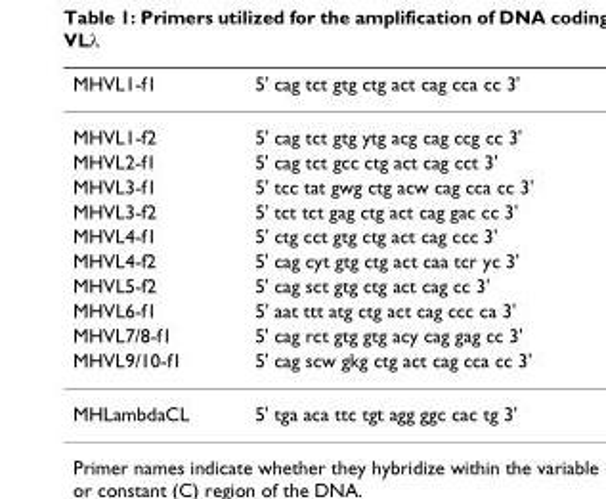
<table><thead><tr><td>MHVL1-f1</td><td>5&#x27; cag tct gtg ctg act cag cca cc 3&#x27;</td></tr></thead><tbody><tr><td>MHVL1-f2</td><td>5&#x27; cag tct gtg ytg acg cag ccg cc 3&#x27;</td></tr><tr><td>MHVL2-f1</td><td>5&#x27; cag tct gcc ctg act cag cct 3&#x27;</td></tr><tr><td>MHVL3-f1</td><td>5&#x27; tcc tat gwg ctg acw cag cca cc 3&#x27;</td></tr><tr><td>MHVL3-f2</td><td>5&#x27; tct tct gag ctg act cag gac cc 3&#x27;</td></tr><tr><td>MHVL4-f1</td><td>5&#x27; ctg cct gtg ctg act cag ccc 3&#x27;</td></tr><tr><td>MHVL4-f2</td><td>5&#x27; cag cyt gtg ctg act caa tcr yc 3&#x27;</td></tr><tr><td>MHVL5-f2</td><td>5&#x27; cag sct gtg ctg act cag cc 3&#x27;</td></tr><tr><td>MHVL6-f1</td><td>5&#x27; aat ttt atg ctg act cag ccc ca 3&#x27;</td></tr><tr><td>MHVL7/8-f1</td><td>5&#x27; cag rct gtg gtg acy cag gag cc 3&#x27;</td></tr><tr><td>MHVL9/10-f1</td><td>5&#x27; cag scw gkg ctg act cag cca cc 3&#x27;</td></tr><tr><td>MHLambdaCL</td><td>5&#x27; tga aca ttc tgt agg ggc cac tg 3&#x27;</td></tr></tbody></table>